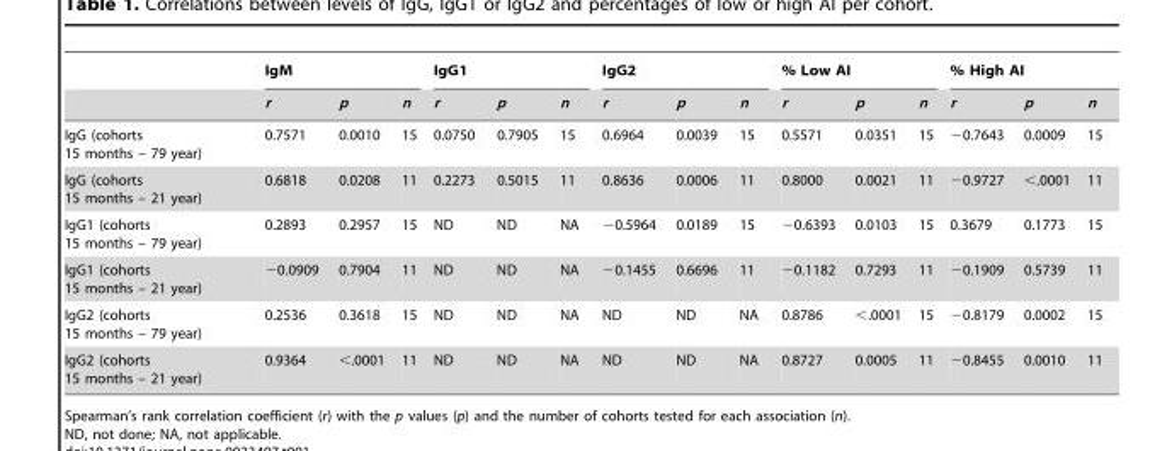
<table><thead><tr><td rowspan="2"></td><td colspan="3">IgM</td><td colspan="3">IgG1</td><td colspan="3">IgG2</td><td colspan="3">% Low AI</td><td colspan="3">% High AI</td></tr><tr><td>r</td><td>p</td><td>n</td><td>r</td><td>p</td><td>n</td><td>r</td><td>p</td><td>n</td><td>r</td><td>p</td><td>n</td><td>r</td><td>p</td><td>n</td></tr></thead><tbody><tr><td>IgG (cohorts 15 months – 79 year)</td><td>0.7571</td><td>0.0010</td><td>15</td><td>0.0750</td><td>0.7905</td><td>15</td><td>0.6964</td><td>0.0039</td><td>15</td><td>0.5571</td><td>0.0351</td><td>15</td><td>−0.7643</td><td>0.0009</td><td>15</td></tr><tr><td>IgG (cohorts 15 months – 21 year)</td><td>0.6818</td><td>0.0208</td><td>11</td><td>0.2273</td><td>0.5015</td><td>11</td><td>0.8636</td><td>0.0006</td><td>11</td><td>0.8000</td><td>0.0021</td><td>11</td><td>−0.9727</td><td>&lt;.0001</td><td>11</td></tr><tr><td>IgG1 (cohorts 15 months – 79 year)</td><td>0.2893</td><td>0.2957</td><td>15</td><td>ND</td><td>ND</td><td>NA</td><td>−0.5964</td><td>0.0189</td><td>15</td><td>−0.6393</td><td>0.0103</td><td>15</td><td>0.3679</td><td>0.1773</td><td>15</td></tr><tr><td>IgG1 (cohorts 15 months – 21 year)</td><td>−0.0909</td><td>0.7904</td><td>11</td><td>ND</td><td>ND</td><td>NA</td><td>−0.1455</td><td>0.6696</td><td>11</td><td>−0.1182</td><td>0.7293</td><td>11</td><td>−0.1909</td><td>0.5739</td><td>11</td></tr><tr><td>IgG2 (cohorts 15 months – 79 year)</td><td>0.2536</td><td>0.3618</td><td>15</td><td>ND</td><td>ND</td><td>NA</td><td>ND</td><td>ND</td><td>NA</td><td>0.8786</td><td>&lt;.0001</td><td>15</td><td>−0.8179</td><td>0.0002</td><td>15</td></tr><tr><td>IgG2 (cohorts 15 months – 21 year)</td><td>0.9364</td><td>&lt;.0001</td><td>11</td><td>ND</td><td>ND</td><td>NA</td><td>ND</td><td>ND</td><td>NA</td><td>0.8727</td><td>0.0005</td><td>11</td><td>−0.8455</td><td>0.0010</td><td>11</td></tr></tbody></table>